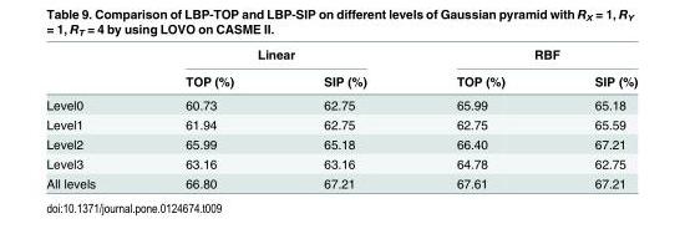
<table><thead><tr><td rowspan="2"></td><td colspan="2">Linear</td><td colspan="2">RBF</td></tr><tr><td>TOP (%)</td><td>SIP (%)</td><td>TOP (%)</td><td>SIP (%)</td></tr></thead><tbody><tr><td>Level0</td><td>60.73</td><td>62.75</td><td>65.99</td><td>65.18</td></tr><tr><td>Level1</td><td>61.94</td><td>62.75</td><td>62.75</td><td>65.59</td></tr><tr><td>Level2</td><td>65.99</td><td>65.18</td><td>66.40</td><td>67.21</td></tr><tr><td>Level3</td><td>63.16</td><td>63.16</td><td>64.78</td><td>62.75</td></tr><tr><td>All levels</td><td>66.80</td><td>67.21</td><td>67.61</td><td>67.21</td></tr></tbody></table>